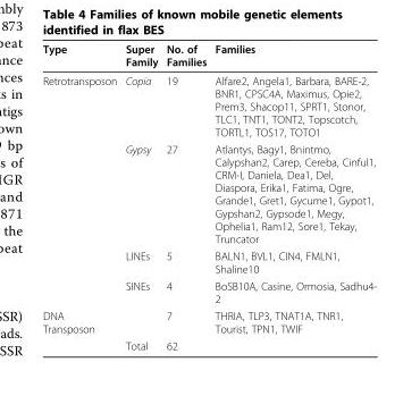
<table><thead><tr><td>Type</td><td>Super Family</td><td>No. of Families</td><td>Families</td></tr></thead><tbody><tr><td rowspan="4">Retrotransposon</td><td>Copia</td><td>19</td><td>Alfare2, Angela1, Barbara, BARE-2, BNR1, CPSC4A, Maximus, Opie2, Prem3, Shacop11, SPRT1, Stonor, TLC1, TNT1, TONT2, Topscotch, TORTL1, TOS17, TOTO1</td></tr><tr><td>Gypsy</td><td>27</td><td>Atlantys, Bagy1, Bnintmo, Calypshan2, Carep, Cereba, Cinful1, CRM-I, Daniela, Dea1, Del, Diaspora, Erika1, Fatima, Ogre, Grande1, Gret1, Gycume1, Gypot1, Gypshan2, Gypsode1, Megy, Ophelia1, Ram12, Sore1, Tekay, Truncator</td></tr><tr><td>LINEs</td><td>5</td><td>BALN1, BVL1, CIN4, FMLN1, Shaline10</td></tr><tr><td>SINEs</td><td>4</td><td>BoSB10A, Casine, Ormosia, Sadhu4- 2</td></tr><tr><td rowspan="2">DNA Transposon</td><td></td><td>7</td><td>THRIA, TLP3, TNAT1A, TNR1, Tourist, TPN1, TWIF</td></tr><tr><td>Total</td><td>62</td><td></td></tr></tbody></table>